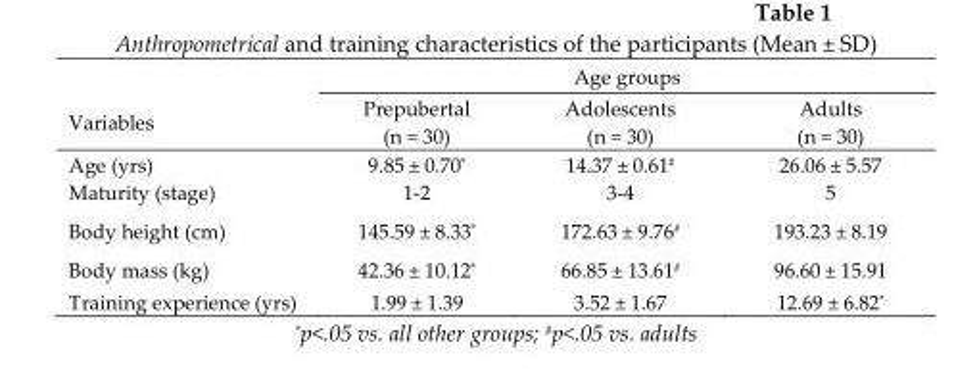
<table><thead><tr><td rowspan="2">Variables</td><td colspan="3">Age groups</td></tr><tr><td>Prepubertal (n = 30)</td><td>Adolescents (n = 30)</td><td>Adults (n = 30)</td></tr></thead><tbody><tr><td>Age (yrs)</td><td>9.85 ± 0.70*</td><td>14.37 ± 0.61<sup>#</sup></td><td>26.06 ± 5.57</td></tr><tr><td>Maturity (stage)</td><td>1-2</td><td>3-4</td><td>5</td></tr><tr><td>Body height (cm)</td><td>145.59 ± 8.33*</td><td>172.63 ± 9.76<sup>#</sup></td><td>193.23 ± 8.19</td></tr><tr><td>Body mass (kg)</td><td>42.36 ± 10.12*</td><td>66.85 ± 13.61<sup>#</sup></td><td>96.60 ± 15.91</td></tr><tr><td>Training experience (yrs)</td><td>1.99 ± 1.39</td><td>3.52 ± 1.67</td><td>12.69 ± 6.82*</td></tr></tbody></table>